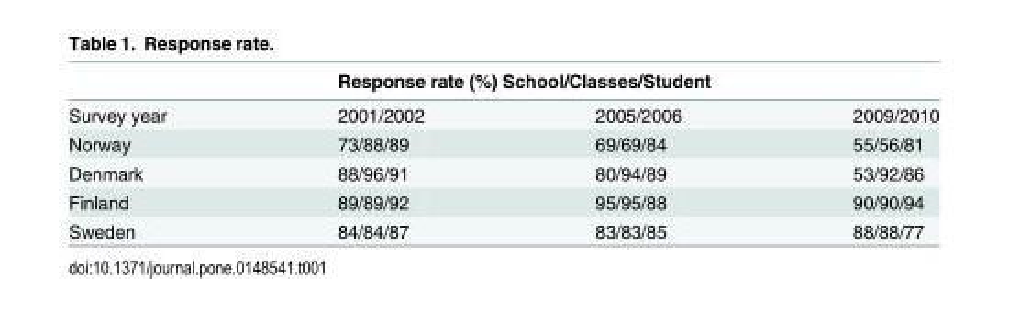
<table><thead><tr><td rowspan="2">Survey year</td><td colspan="3">Response rate (%) School/Classes/Student</td></tr><tr><td>2001/2002</td><td>2005/2006</td><td>2009/2010</td></tr></thead><tbody><tr><td>Norway</td><td>73/88/89</td><td>69/69/84</td><td>55/56/81</td></tr><tr><td>Denmark</td><td>88/96/91</td><td>80/94/89</td><td>53/92/86</td></tr><tr><td>Finland</td><td>89/89/92</td><td>95/95/88</td><td>90/90/94</td></tr><tr><td>Sweden</td><td>84/84/87</td><td>83/83/85</td><td>88/88/77</td></tr></tbody></table>